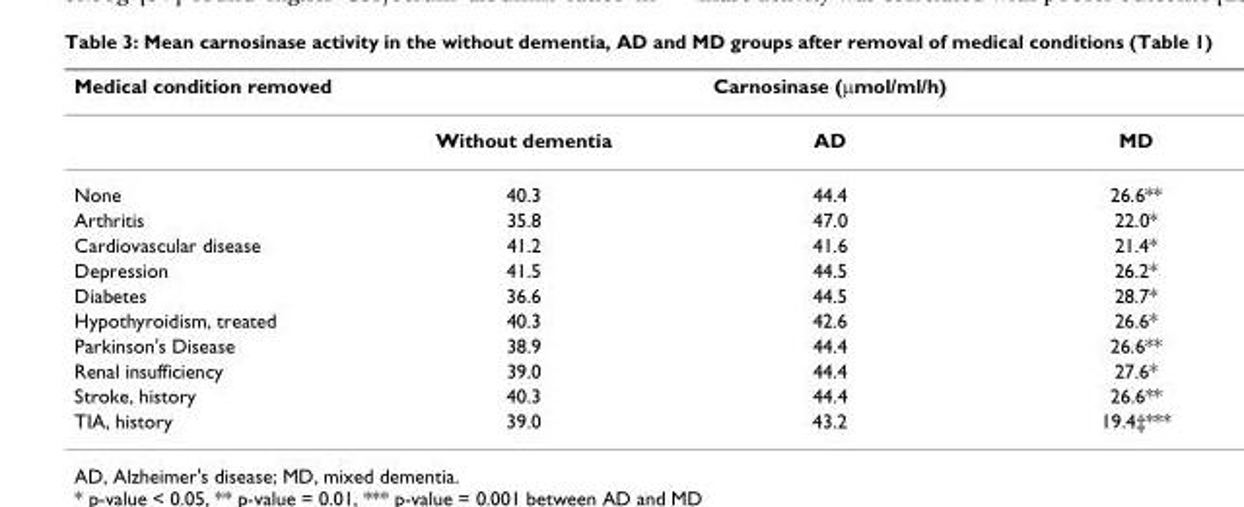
<table><thead><tr><td rowspan="2">Medical condition removed</td><td colspan="3">Carnosinase (µmol/ml/h)</td></tr><tr><td>Without dementia</td><td>AD</td><td>MD</td></tr></thead><tbody><tr><td>None</td><td>40.3</td><td>44.4</td><td>26.6**</td></tr><tr><td>Arthritis</td><td>35.8</td><td>47.0</td><td>22.0*</td></tr><tr><td>Cardiovascular disease</td><td>41.2</td><td>41.6</td><td>21.4*</td></tr><tr><td>Depression</td><td>41.5</td><td>44.5</td><td>26.2*</td></tr><tr><td>Diabetes</td><td>36.6</td><td>44.5</td><td>28.7*</td></tr><tr><td>Hypothyroidism, treated</td><td>40.3</td><td>42.6</td><td>26.6*</td></tr><tr><td>Parkinson&#x27;s Disease</td><td>38.9</td><td>44.4</td><td>26.6**</td></tr><tr><td>Renal insufficiency</td><td>39.0</td><td>44.4</td><td>27.6*</td></tr><tr><td>Stroke, history</td><td>40.3</td><td>44.4</td><td>26.6**</td></tr><tr><td>TIA, history</td><td>39.0</td><td>43.2</td><td>19.4‡***</td></tr></tbody></table>